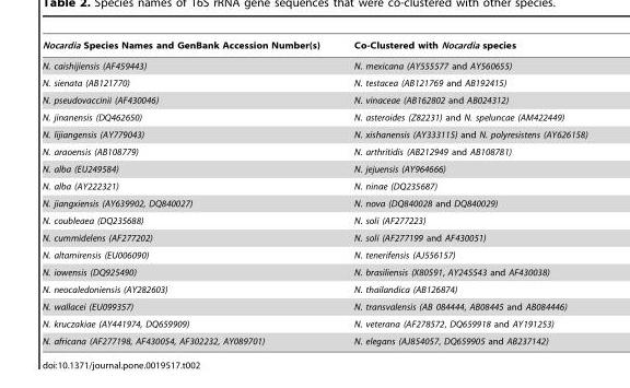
<table><thead><tr><td>Nocardia Species Names and GenBank Accession Number(s)</td><td>Co-Clustered with Nocardia species</td></tr></thead><tbody><tr><td>N. caishijiensis (AF459443)</td><td>N. mexicana (AY555577 and AY560655)</td></tr><tr><td>N. sienata (AB121770)</td><td>N. testacea (AB121769 and AB192415)</td></tr><tr><td>N. pseudovaccinii (AF430046)</td><td>N. vinaceae (AB162802 and AB024312)</td></tr><tr><td>N. jinanensis (DQ462650)</td><td>N. asteroides (Z82231) and N. speluncae (AM422449)</td></tr><tr><td>N. lijiangensis (AY779043)</td><td>N. xishanensis (AY333115) and N. polyresistens (AY626158)</td></tr><tr><td>N. araoensis (AB108779)</td><td>N. arthritidis (AB212949 and AB108781)</td></tr><tr><td>N. alba (EU249584)</td><td>N. jejuensis (AY964666)</td></tr><tr><td>N. alba (AY222321)</td><td>N. ninae (DQ235687)</td></tr><tr><td>N. jiangxiensis (AY639902, DQ840027)</td><td>N. nova (DQ840028 and DQ840029)</td></tr><tr><td>N. coubleaea (DQ235688)</td><td>N. soli (AF277223)</td></tr><tr><td>N. cummidelens (AF277202)</td><td>N. soli (AF277199 and AF430051)</td></tr><tr><td>N. altamirensis (EU006090)</td><td>N. tenerifensis (AJ556157)</td></tr><tr><td>N. iowensis (DQ925490)</td><td>N. brasiliensis (X80591, AY245543 and AF430038)</td></tr><tr><td>N. neocaledoniensis (AY282603)</td><td>N. thailandica (AB126874)</td></tr><tr><td>N. wallacei (EU099357)</td><td>N. transvalensis (AB 084444, AB08445 and AB084446)</td></tr><tr><td>N. kruczakiae (AY441974, DQ659909)</td><td>N. veterana (AF278572, DQ659918 and AY191253)</td></tr><tr><td>N. africana (AF277198, AF430054, AF302232, AY089701)</td><td>N. elegans (AJ854057, DQ659905 and AB237142)</td></tr></tbody></table>